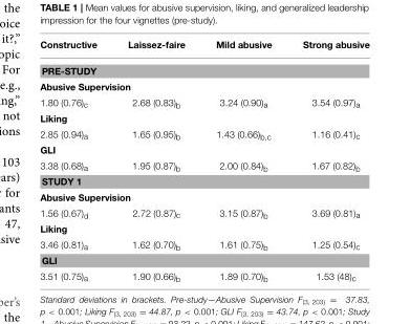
<table><thead><tr><td>Constructive</td><td>Laissez-faire</td><td>Mild abusive</td><td>Strong abusive</td></tr></thead><tbody><tr><td colspan="4">PRE-STUDY</td></tr><tr><td colspan="4">Abusive Supervision</td></tr><tr><td>1.80 (0.76)<sub>c</sub></td><td>2.68 (0.83)<sub>b</sub></td><td>3.24 (0.90)<sub>a</sub></td><td>3.54 (0.97)<sub>a</sub></td></tr><tr><td colspan="4">Liking</td></tr><tr><td>2.85 (0.94)<sub>a</sub></td><td>1.65 (0.95)<sub>b</sub></td><td>1.43 (0.66)<sub>b,c</sub></td><td>1.16 (0.41)<sub>c</sub></td></tr><tr><td colspan="4">GLI</td></tr><tr><td>3.38 (0.68)<sub>a</sub></td><td>1.95 (0.87)<sub>b</sub></td><td>2.00 (0.84)<sub>b</sub></td><td>1.67 (0.82)<sub>b</sub></td></tr><tr><td colspan="4">STUDY 1</td></tr><tr><td colspan="4">Abusive Supervision</td></tr><tr><td>1.56 (0.67)<sub>d</sub></td><td>2.72 (0.87)<sub>c</sub></td><td>3.15 (0.87)<sub>b</sub></td><td>3.69 (0.81)<sub>a</sub></td></tr><tr><td colspan="4">Liking</td></tr><tr><td>3.46 (0.81)<sub>a</sub></td><td>1.62 (0.70)<sub>b</sub></td><td>1.61 (0.75)<sub>b</sub></td><td>1.25 (0.54)<sub>c</sub></td></tr><tr><td colspan="4">GLI</td></tr><tr><td>3.51 (0.75)<sub>a</sub></td><td>1.90 (0.66)<sub>b</sub></td><td>1.89 (0.70)<sub>b</sub></td><td>1.53 (48)<sub>c</sub></td></tr></tbody></table>